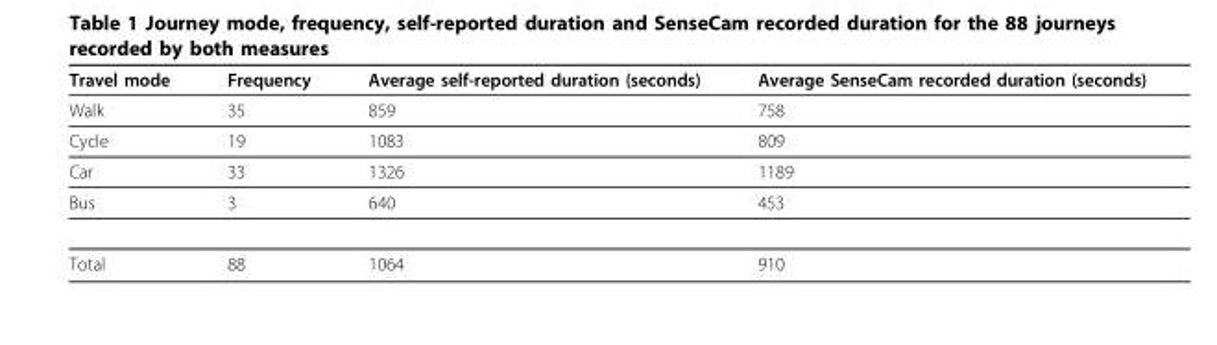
<table><thead><tr><td>Travel mode</td><td>Frequency</td><td>Average self-reported duration (seconds)</td><td>Average SenseCam recorded duration (seconds)</td></tr></thead><tbody><tr><td>Walk</td><td>35</td><td>859</td><td>758</td></tr><tr><td>Cycle</td><td>19</td><td>1083</td><td>809</td></tr><tr><td>Car</td><td>33</td><td>1326</td><td>1189</td></tr><tr><td>Bus</td><td>3</td><td>640</td><td>453</td></tr><tr><td>Total</td><td>88</td><td>1064</td><td>910</td></tr></tbody></table>